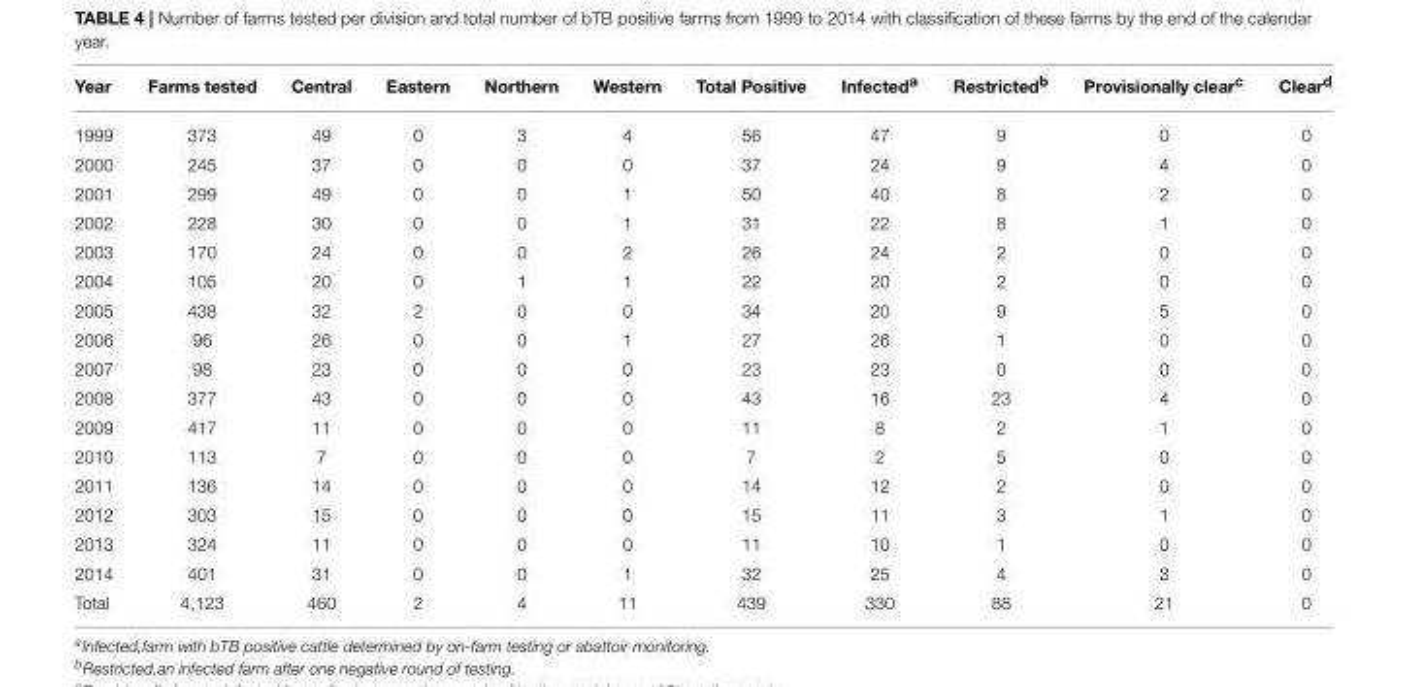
<table><thead><tr><td>Year</td><td>Farms tested</td><td>Central</td><td>Eastern</td><td>Northern</td><td>Western</td><td>Total Positive</td><td>Infected<sup>a</sup></td><td>Restricted<sup>b</sup></td><td>Provisionally clear<sup>c</sup></td><td>Clear<sup>d</sup></td></tr></thead><tbody><tr><td>1999</td><td>373</td><td>49</td><td>0</td><td>3</td><td>4</td><td>56</td><td>47</td><td>9</td><td>0</td><td>0</td></tr><tr><td>2000</td><td>245</td><td>37</td><td>0</td><td>0</td><td>0</td><td>37</td><td>24</td><td>9</td><td>4</td><td>0</td></tr><tr><td>2001</td><td>299</td><td>49</td><td>0</td><td>0</td><td>1</td><td>50</td><td>40</td><td>8</td><td>2</td><td>0</td></tr><tr><td>2002</td><td>228</td><td>30</td><td>0</td><td>0</td><td>1</td><td>31</td><td>22</td><td>8</td><td>1</td><td>0</td></tr><tr><td>2003</td><td>170</td><td>24</td><td>0</td><td>0</td><td>2</td><td>26</td><td>24</td><td>2</td><td>0</td><td>0</td></tr><tr><td>2004</td><td>105</td><td>20</td><td>0</td><td>1</td><td>1</td><td>22</td><td>20</td><td>2</td><td>0</td><td>0</td></tr><tr><td>2005</td><td>438</td><td>32</td><td>2</td><td>0</td><td>0</td><td>34</td><td>20</td><td>9</td><td>5</td><td>0</td></tr><tr><td>2006</td><td>96</td><td>26</td><td>0</td><td>0</td><td>1</td><td>27</td><td>26</td><td>1</td><td>0</td><td>0</td></tr><tr><td>2007</td><td>98</td><td>23</td><td>0</td><td>0</td><td>0</td><td>23</td><td>23</td><td>0</td><td>0</td><td>0</td></tr><tr><td>2008</td><td>377</td><td>43</td><td>0</td><td>0</td><td>0</td><td>43</td><td>16</td><td>23</td><td>4</td><td>0</td></tr><tr><td>2009</td><td>417</td><td>11</td><td>0</td><td>0</td><td>0</td><td>11</td><td>8</td><td>2</td><td>1</td><td>0</td></tr><tr><td>2010</td><td>113</td><td>7</td><td>0</td><td>0</td><td>0</td><td>7</td><td>2</td><td>5</td><td>0</td><td>0</td></tr><tr><td>2011</td><td>136</td><td>14</td><td>0</td><td>0</td><td>0</td><td>14</td><td>12</td><td>2</td><td>0</td><td>0</td></tr><tr><td>2012</td><td>303</td><td>15</td><td>0</td><td>0</td><td>0</td><td>15</td><td>11</td><td>3</td><td>1</td><td>0</td></tr><tr><td>2013</td><td>324</td><td>11</td><td>0</td><td>0</td><td>0</td><td>11</td><td>10</td><td>1</td><td>0</td><td>0</td></tr><tr><td>2014</td><td>401</td><td>31</td><td>0</td><td>0</td><td>1</td><td>32</td><td>25</td><td>4</td><td>3</td><td>0</td></tr><tr><td>Total</td><td>4,123</td><td>460</td><td>2</td><td>4</td><td>11</td><td>439</td><td>330</td><td>88</td><td>21</td><td>0</td></tr></tbody></table>